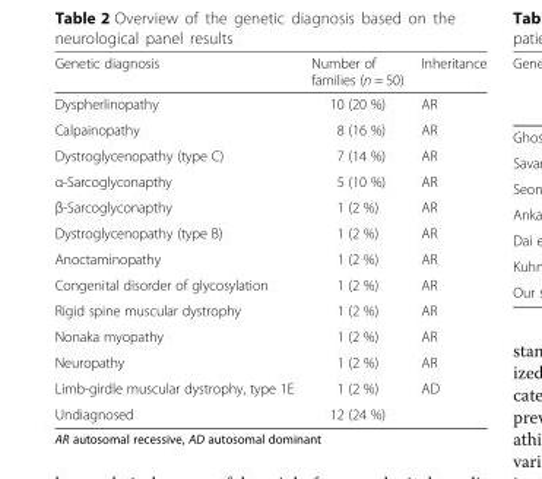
<table><thead><tr><td>Genetic diagnosis</td><td>Number of families (n = 50)</td><td>Inheritance</td></tr></thead><tbody><tr><td>Dyspherlinopathy</td><td>10 (20 %)</td><td>AR</td></tr><tr><td>Calpainopathy</td><td>8 (16 %)</td><td>AR</td></tr><tr><td>Dystroglycenopathy (type C)</td><td>7 (14 %)</td><td>AR</td></tr><tr><td>α-Sarcoglyconapthy</td><td>5 (10 %)</td><td>AR</td></tr><tr><td>β-Sarcoglyconapthy</td><td>1 (2 %)</td><td>AR</td></tr><tr><td>Dystroglycenopathy (type B)</td><td>1 (2 %)</td><td>AR</td></tr><tr><td>Anoctaminopathy</td><td>1 (2 %)</td><td>AR</td></tr><tr><td>Congenital disorder of glycosylation</td><td>1 (2 %)</td><td>AR</td></tr><tr><td>Rigid spine muscular dystrophy</td><td>1 (2 %)</td><td>AR</td></tr><tr><td>Nonaka myopathy</td><td>1 (2 %)</td><td>AR</td></tr><tr><td>Neuropathy</td><td>1 (2 %)</td><td>AR</td></tr><tr><td>Limb-girdle muscular dystrophy, type 1E</td><td>1 (2 %)</td><td>AD</td></tr><tr><td>Undiagnosed</td><td>12 (24 %)</td><td></td></tr></tbody></table>